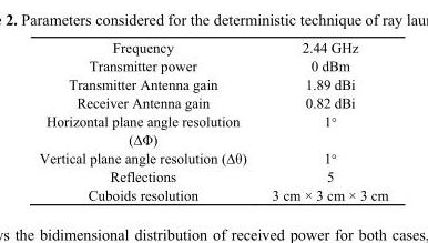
<table><tbody><tr><td>Frequency</td><td>2.44 GHz</td></tr><tr><td>Transmitter power</td><td>0 dBm</td></tr><tr><td>Transmitter Antenna gain</td><td>1.89 dBi</td></tr><tr><td>Receiver Antenna gain</td><td>0.82 dBi</td></tr><tr><td>Horizontal plane angle resolution (∆Φ)</td><td>1°</td></tr><tr><td>Vertical plane angle resolution (∆θ)</td><td>1°</td></tr><tr><td>Reflections</td><td>5</td></tr><tr><td>Cuboids resolution</td><td>3 cm × 3 cm × 3 cm</td></tr></tbody></table>